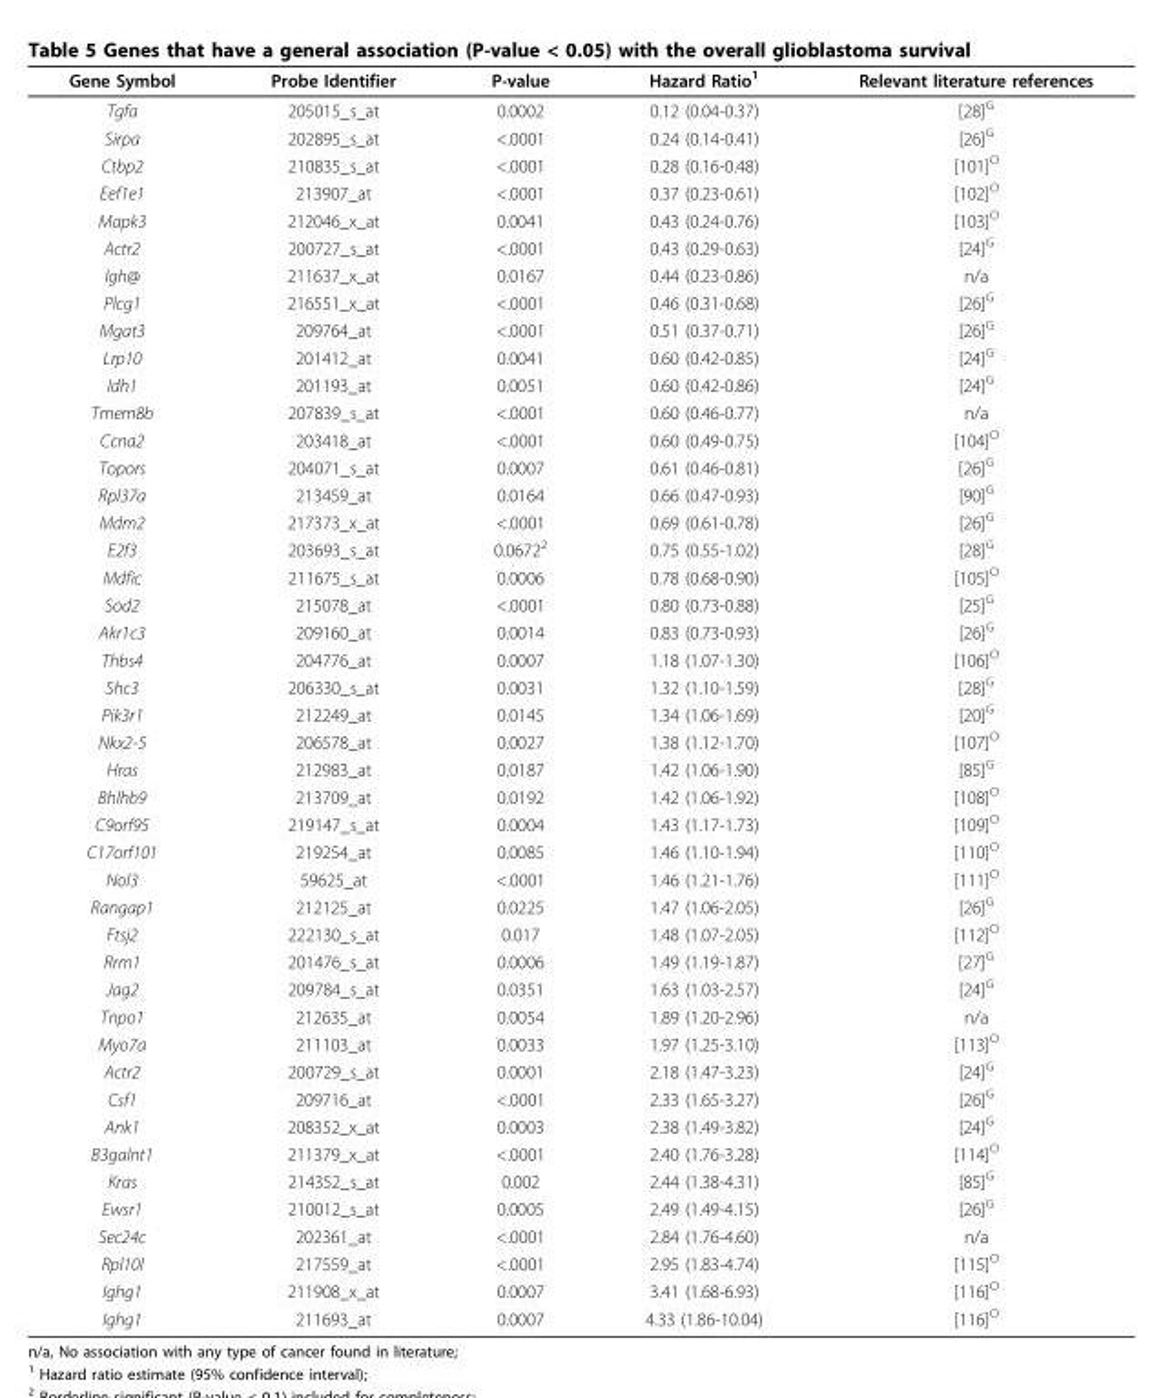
<table><thead><tr><td>Gene Symbol</td><td>Probe Identifier</td><td>P-value</td><td>Hazard Ratio<sup>1</sup></td><td>Relevant literature references</td></tr></thead><tbody><tr><td>Tgfa</td><td>205015_s_at</td><td>0.0002</td><td>0.12 (0.04-0.37)</td><td>[28]<sup>G</sup></td></tr><tr><td>Sirpa</td><td>202895_s_at</td><td>&lt;.0001</td><td>0.24 (0.14-0.41)</td><td>[26]<sup>G</sup></td></tr><tr><td>Ctbp2</td><td>210835_s_at</td><td>&lt;.0001</td><td>0.28 (0.16-0.48)</td><td>[101]<sup>O</sup></td></tr><tr><td>Eef1e1</td><td>213907_at</td><td>&lt;.0001</td><td>0.37 (0.23-0.61)</td><td>[102]<sup>O</sup></td></tr><tr><td>Mapk3</td><td>212046_x_at</td><td>0.0041</td><td>0.43 (0.24-0.76)</td><td>[103]<sup>O</sup></td></tr><tr><td>Actr2</td><td>200727_s_at</td><td>&lt;.0001</td><td>0.43 (0.29-0.63)</td><td>[24]<sup>G</sup></td></tr><tr><td>Igh@</td><td>211637_x_at</td><td>0.0167</td><td>0.44 (0.23-0.86)</td><td>n/a</td></tr><tr><td>Plcg1</td><td>216551_x_at</td><td>&lt;.0001</td><td>0.46 (0.31-0.68)</td><td>[26]<sup>G</sup></td></tr><tr><td>Mgat3</td><td>209764_at</td><td>&lt;.0001</td><td>0.51 (0.37-0.71)</td><td>[26]<sup>G</sup></td></tr><tr><td>Lrp10</td><td>201412_at</td><td>0.0041</td><td>0.60 (0.42-0.85)</td><td>[24]<sup>G</sup></td></tr><tr><td>Idh1</td><td>201193_at</td><td>0.0051</td><td>0.60 (0.42-0.86)</td><td>[24]<sup>G</sup></td></tr><tr><td>Tmem8b</td><td>207839_s_at</td><td>&lt;.0001</td><td>0.60 (0.46-0.77)</td><td>n/a</td></tr><tr><td>Ccna2</td><td>203418_at</td><td>&lt;.0001</td><td>0.60 (0.49-0.75)</td><td>[104]<sup>O</sup></td></tr><tr><td>Topors</td><td>204071_s_at</td><td>0.0007</td><td>0.61 (0.46-0.81)</td><td>[26]<sup>G</sup></td></tr><tr><td>Rpl37a</td><td>213459_at</td><td>0.0164</td><td>0.66 (0.47-0.93)</td><td>[90]<sup>G</sup></td></tr><tr><td>Mdm2</td><td>217373_x_at</td><td>&lt;.0001</td><td>0.69 (0.61-0.78)</td><td>[26]<sup>G</sup></td></tr><tr><td>E2f3</td><td>203693_s_at</td><td>0.0672<sup>2</sup></td><td>0.75 (0.55-1.02)</td><td>[28]<sup>G</sup></td></tr><tr><td>Mdfic</td><td>211675_s_at</td><td>0.0006</td><td>0.78 (0.68-0.90)</td><td>[105]<sup>O</sup></td></tr><tr><td>Sod2</td><td>215078_at</td><td>&lt;.0001</td><td>0.80 (0.73-0.88)</td><td>[25]<sup>G</sup></td></tr><tr><td>Akr1c3</td><td>209160_at</td><td>0.0014</td><td>0.83 (0.73-0.93)</td><td>[26]<sup>G</sup></td></tr><tr><td>Thbs4</td><td>204776_at</td><td>0.0007</td><td>1.18 (1.07-1.30)</td><td>[106]<sup>O</sup></td></tr><tr><td>Shc3</td><td>206330_s_at</td><td>0.0031</td><td>1.32 (1.10-1.59)</td><td>[28]<sup>G</sup></td></tr><tr><td>Pik3r1</td><td>212249_at</td><td>0.0145</td><td>1.34 (1.06-1.69)</td><td>[20]<sup>G</sup></td></tr><tr><td>Nkx2-5</td><td>206578_at</td><td>0.0027</td><td>1.38 (1.12-1.70)</td><td>[107]<sup>O</sup></td></tr><tr><td>Hras</td><td>212983_at</td><td>0.0187</td><td>1.42 (1.06-1.90)</td><td>[85]<sup>G</sup></td></tr><tr><td>Bhlhb9</td><td>213709_at</td><td>0.0192</td><td>1.42 (1.06-1.92)</td><td>[108]<sup>O</sup></td></tr><tr><td>C9orf95</td><td>219147_s_at</td><td>0.0004</td><td>1.43 (1.17-1.73)</td><td>[109]<sup>O</sup></td></tr><tr><td>C17orf101</td><td>219254_at</td><td>0.0085</td><td>1.46 (1.10-1.94)</td><td>[110]<sup>O</sup></td></tr><tr><td>Nol3</td><td>59625_at</td><td>&lt;.0001</td><td>1.46 (1.21-1.76)</td><td>[111]<sup>O</sup></td></tr><tr><td>Rangap1</td><td>212125_at</td><td>0.0225</td><td>1.47 (1.06-2.05)</td><td>[26]<sup>G</sup></td></tr><tr><td>Ftsj2</td><td>222130_s_at</td><td>0.017</td><td>1.48 (1.07-2.05)</td><td>[112]<sup>O</sup></td></tr><tr><td>Rrm1</td><td>201476_s_at</td><td>0.0006</td><td>1.49 (1.19-1.87)</td><td>[27]<sup>G</sup></td></tr><tr><td>Jag2</td><td>209784_s_at</td><td>0.0351</td><td>1.63 (1.03-2.57)</td><td>[24]<sup>G</sup></td></tr><tr><td>Tnpo1</td><td>212635_at</td><td>0.0054</td><td>1.89 (1.20-2.96)</td><td>n/a</td></tr><tr><td>Myo7a</td><td>211103_at</td><td>0.0033</td><td>1.97 (1.25-3.10)</td><td>[113]<sup>O</sup></td></tr><tr><td>Actr2</td><td>200729_s_at</td><td>0.0001</td><td>2.18 (1.47-3.23)</td><td>[24]<sup>G</sup></td></tr><tr><td>Csf1</td><td>209716_at</td><td>&lt;.0001</td><td>2.33 (1.65-3.27)</td><td>[26]<sup>G</sup></td></tr><tr><td>Ank1</td><td>208352_x_at</td><td>0.0003</td><td>2.38 (1.49-3.82)</td><td>[24]<sup>G</sup></td></tr><tr><td>B3galnt1</td><td>211379_x_at</td><td>&lt;.0001</td><td>2.40 (1.76-3.28)</td><td>[114]<sup>O</sup></td></tr><tr><td>Kras</td><td>214352_s_at</td><td>0.002</td><td>2.44 (1.38-4.31)</td><td>[85]<sup>G</sup></td></tr><tr><td>Ewsr1</td><td>210012_s_at</td><td>0.0005</td><td>2.49 (1.49-4.15)</td><td>[26]<sup>G</sup></td></tr><tr><td>Sec24c</td><td>202361_at</td><td>&lt;.0001</td><td>2.84 (1.76-4.60)</td><td>n/a</td></tr><tr><td>Rpl10l</td><td>217559_at</td><td>&lt;.0001</td><td>2.95 (1.83-4.74)</td><td>[115]<sup>O</sup></td></tr><tr><td>Ighg1</td><td>211908_x_at</td><td>0.0007</td><td>3.41 (1.68-6.93)</td><td>[116]<sup>O</sup></td></tr><tr><td>Ighg1</td><td>211693_at</td><td>0.0007</td><td>4.33 (1.86-10.04)</td><td>[116]<sup>O</sup></td></tr></tbody></table>